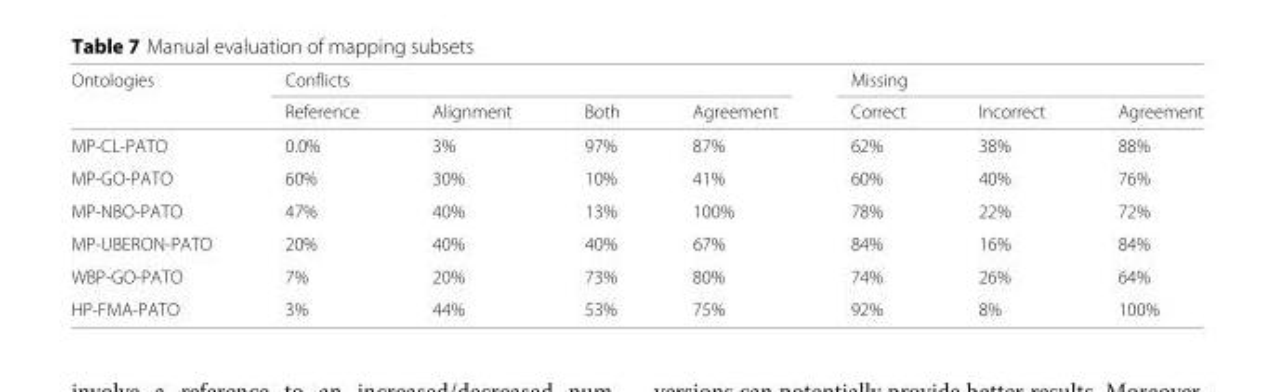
<table><thead><tr><td rowspan="2">Ontologies</td><td colspan="4">Conflicts</td><td colspan="3">Missing</td></tr><tr><td>Reference</td><td>Alignment</td><td>Both</td><td>Agreement</td><td>Correct</td><td>Incorrect</td><td>Agreement</td></tr></thead><tbody><tr><td>MP-CL-PATO</td><td>0.0%</td><td>3%</td><td>97%</td><td>87%</td><td>62%</td><td>38%</td><td>88%</td></tr><tr><td>MP-GO-PATO</td><td>60%</td><td>30%</td><td>10%</td><td>41%</td><td>60%</td><td>40%</td><td>76%</td></tr><tr><td>MP-NBO-PATO</td><td>47%</td><td>40%</td><td>13%</td><td>100%</td><td>78%</td><td>22%</td><td>72%</td></tr><tr><td>MP-UBERON-PATO</td><td>20%</td><td>40%</td><td>40%</td><td>67%</td><td>84%</td><td>16%</td><td>84%</td></tr><tr><td>WBP-GO-PATO</td><td>7%</td><td>20%</td><td>73%</td><td>80%</td><td>74%</td><td>26%</td><td>64%</td></tr><tr><td>HP-FMA-PATO</td><td>3%</td><td>44%</td><td>53%</td><td>75%</td><td>92%</td><td>8%</td><td>100%</td></tr></tbody></table>